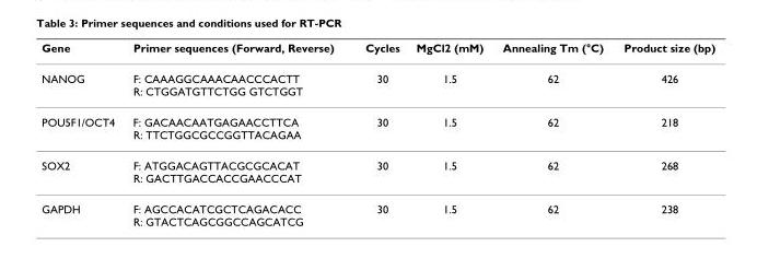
<table><thead><tr><td>Gene</td><td>Primer sequences (Forward, Reverse)</td><td>Cycles</td><td>MgCl2 (mM)</td><td>Annealing Tm (°C)</td><td>Product size (bp)</td></tr></thead><tbody><tr><td>NANOG</td><td>F: CAAAGGCAAACAACCCACTT R: CTGGATGTTCTGG GTCTGGT</td><td>30</td><td>1.5</td><td>62</td><td>426</td></tr><tr><td>POU5F1/OCT4</td><td>F: GACAACAATGAGAACCTTCA R: TTCTGGCGCCGGTTACAGAA</td><td>30</td><td>1.5</td><td>62</td><td>218</td></tr><tr><td>SOX2</td><td>F: ATGGACAGTTACGCGCACAT R: GACTTGACCACCGAACCCAT</td><td>30</td><td>1.5</td><td>62</td><td>268</td></tr><tr><td>GAPDH</td><td>F: AGCCACATCGCTCAGACACC R: GTACTCAGCGGCCAGCATCG</td><td>30</td><td>1.5</td><td>62</td><td>238</td></tr></tbody></table>